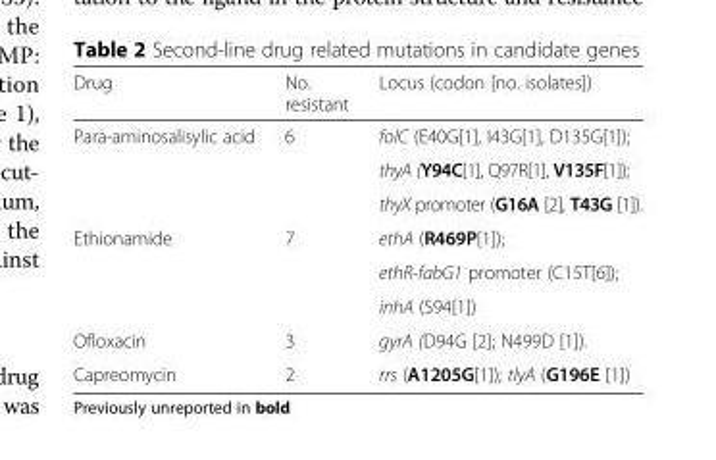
<table><thead><tr><td>Drug</td><td>No. resistant</td><td>Locus (codon [no. isolates])</td></tr></thead><tbody><tr><td rowspan="3">Para-aminosalisylic acid</td><td rowspan="3">6</td><td>folC (E40G[1], I43G[1], D135G[1]);</td></tr><tr><td>thyA (Y94C[1], Q97R[1], V135F[1]);</td></tr><tr><td>thyX promoter (G16A [2], T43G [1]).</td></tr><tr><td rowspan="3">Ethionamide</td><td rowspan="3">7</td><td>ethA (R469P[1]);</td></tr><tr><td>ethR-fabG1 promoter (C15T[6]);</td></tr><tr><td>inhA (S94[1])</td></tr><tr><td>Ofloxacin</td><td>3</td><td>gyrA (D94G [2]; N499D [1]).</td></tr><tr><td>Capreomycin</td><td>2</td><td>rrs (A1205G[1]); tlyA (G196E [1])</td></tr></tbody></table>